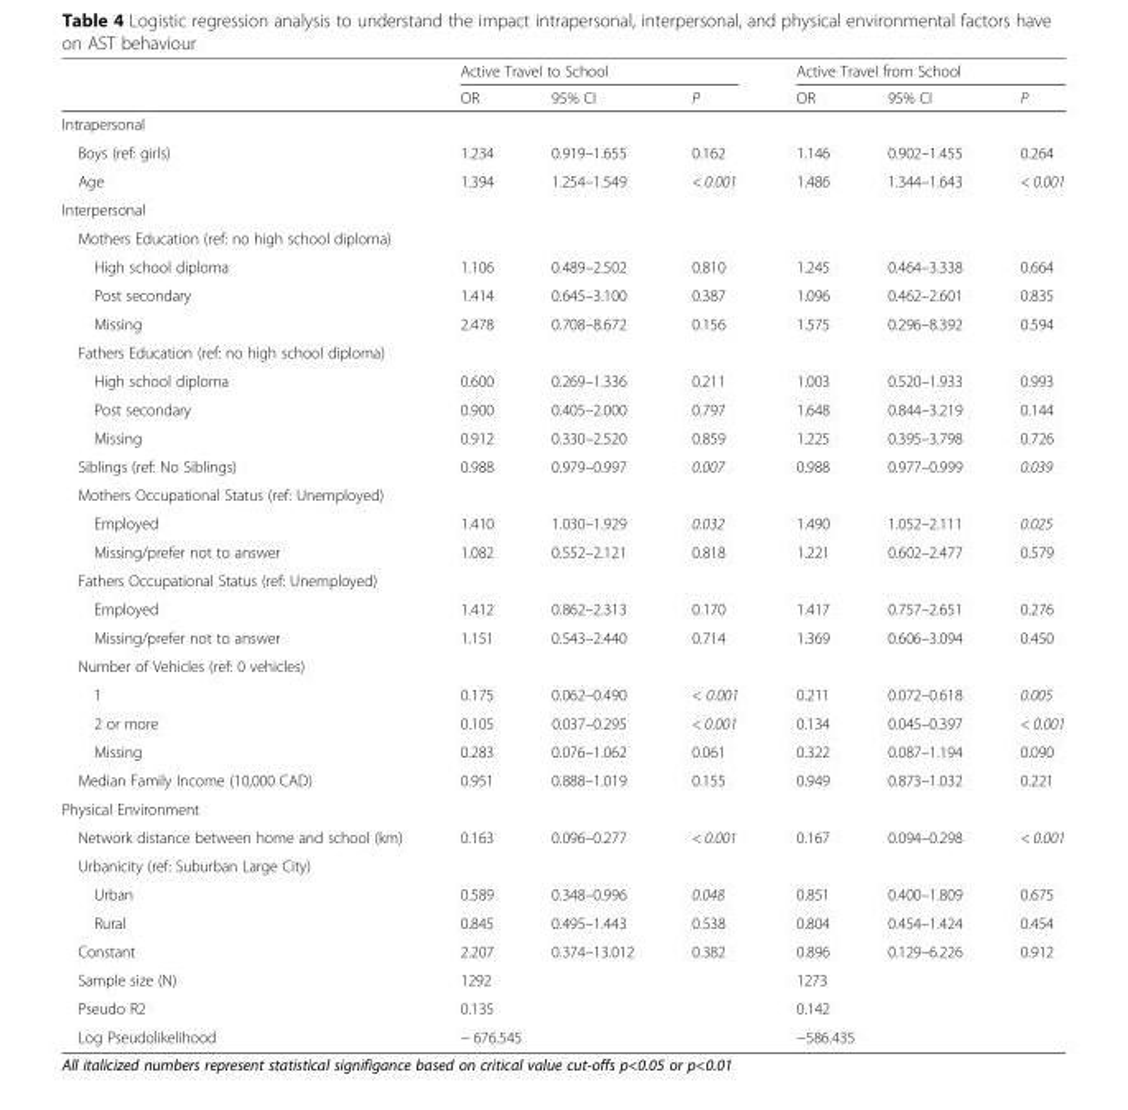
<table><thead><tr><td rowspan="2"></td><td colspan="3">Active Travel to School</td><td colspan="3">Active Travel from School</td></tr><tr><td>OR</td><td>95% CI</td><td>P</td><td>OR</td><td>95% CI</td><td>P</td></tr></thead><tbody><tr><td colspan="7">Intrapersonal</td></tr><tr><td>Boys (ref: girls)</td><td>1.234</td><td>0.919–1.655</td><td>0.162</td><td>1.146</td><td>0.902–1.455</td><td>0.264</td></tr><tr><td>Age</td><td>1.394</td><td>1.254–1.549</td><td>&lt; 0.001</td><td>1.486</td><td>1.344–1.643</td><td>&lt; 0.001</td></tr><tr><td colspan="7">Interpersonal</td></tr><tr><td colspan="7">Mothers Education (ref: no high school diploma)</td></tr><tr><td>High school diploma</td><td>1.106</td><td>0.489–2.502</td><td>0.810</td><td>1.245</td><td>0.464–3.338</td><td>0.664</td></tr><tr><td>Post secondary</td><td>1.414</td><td>0.645–3.100</td><td>0.387</td><td>1.096</td><td>0.462–2.601</td><td>0.835</td></tr><tr><td>Missing</td><td>2.478</td><td>0.708–8.672</td><td>0.156</td><td>1.575</td><td>0.296–8.392</td><td>0.594</td></tr><tr><td colspan="7">Fathers Education (ref: no high school diploma)</td></tr><tr><td>High school diploma</td><td>0.600</td><td>0.269–1.336</td><td>0.211</td><td>1.003</td><td>0.520–1.933</td><td>0.993</td></tr><tr><td>Post secondary</td><td>0.900</td><td>0.405–2.000</td><td>0.797</td><td>1.648</td><td>0.844–3.219</td><td>0.144</td></tr><tr><td>Missing</td><td>0.912</td><td>0.330–2.520</td><td>0.859</td><td>1.225</td><td>0.395–3.798</td><td>0.726</td></tr><tr><td>Siblings (ref: No Siblings)</td><td>0.988</td><td>0.979–0.997</td><td>0.007</td><td>0.988</td><td>0.977–0.999</td><td>0.039</td></tr><tr><td colspan="7">Mothers Occupational Status (ref: Unemployed)</td></tr><tr><td>Employed</td><td>1.410</td><td>1.030–1.929</td><td>0.032</td><td>1.490</td><td>1.052–2.111</td><td>0.025</td></tr><tr><td>Missing/prefer not to answer</td><td>1.082</td><td>0.552–2.121</td><td>0.818</td><td>1.221</td><td>0.602–2.477</td><td>0.579</td></tr><tr><td colspan="7">Fathers Occupational Status (ref: Unemployed)</td></tr><tr><td>Employed</td><td>1.412</td><td>0.862–2.313</td><td>0.170</td><td>1.417</td><td>0.757–2.651</td><td>0.276</td></tr><tr><td>Missing/prefer not to answer</td><td>1.151</td><td>0.543–2.440</td><td>0.714</td><td>1.369</td><td>0.606–3.094</td><td>0.450</td></tr><tr><td colspan="7">Number of Vehicles (ref: 0 vehicles)</td></tr><tr><td>1</td><td>0.175</td><td>0.062–0.490</td><td>&lt; 0.001</td><td>0.211</td><td>0.072–0.618</td><td>0.005</td></tr><tr><td>2 or more</td><td>0.105</td><td>0.037–0.295</td><td>&lt; 0.001</td><td>0.134</td><td>0.045–0.397</td><td>&lt; 0.001</td></tr><tr><td>Missing</td><td>0.283</td><td>0.076–1.062</td><td>0.061</td><td>0.322</td><td>0.087–1.194</td><td>0.090</td></tr><tr><td>Median Family Income (10,000 CAD)</td><td>0.951</td><td>0.888–1.019</td><td>0.155</td><td>0.949</td><td>0.873–1.032</td><td>0.221</td></tr><tr><td colspan="7">Physical Environment</td></tr><tr><td>Network distance between home and school (km)</td><td>0.163</td><td>0.096–0.277</td><td>&lt; 0.001</td><td>0.167</td><td>0.094–0.298</td><td>&lt; 0.001</td></tr><tr><td colspan="7">Urbanicity (ref: Suburban Large City)</td></tr><tr><td>Urban</td><td>0.589</td><td>0.348–0.996</td><td>0.048</td><td>0.851</td><td>0.400–1.809</td><td>0.675</td></tr><tr><td>Rural</td><td>0.845</td><td>0.495–1.443</td><td>0.538</td><td>0.804</td><td>0.454–1.424</td><td>0.454</td></tr><tr><td>Constant</td><td>2.207</td><td>0.374–13.012</td><td>0.382</td><td>0.896</td><td>0.129–6.226</td><td>0.912</td></tr><tr><td>Sample size (N)</td><td colspan="3">1292</td><td colspan="3">1273</td></tr><tr><td>Pseudo R2</td><td colspan="3">0.135</td><td colspan="3">0.142</td></tr><tr><td>Log Pseudolikelihood</td><td colspan="3">− 676.545</td><td colspan="3">−586.435</td></tr></tbody></table>